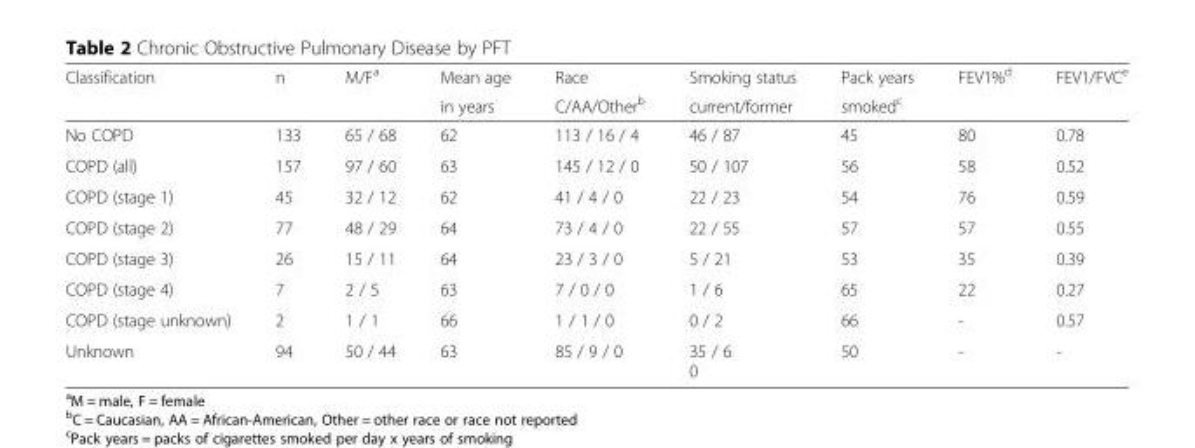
<table><thead><tr><td rowspan="2">Classification</td><td rowspan="2">n</td><td rowspan="2">M/F<sup>a</sup></td><td rowspan="2">Mean age in years</td><td rowspan="2">Race C/AA/Other<sup>b</sup></td><td rowspan="2">Smoking status current/former</td><td rowspan="2">Pack years smoked<sup>c</sup></td><td rowspan="2">FEV1%<sup>d</sup></td><td rowspan="2">FEV1/FVC<sup>e</sup></td></tr><tr></tr></thead><tbody><tr><td>No COPD</td><td>133</td><td>65 / 68</td><td>62</td><td>113 / 16 / 4</td><td>46 / 87</td><td>45</td><td>80</td><td>0.78</td></tr><tr><td>COPD (all)</td><td>157</td><td>97 / 60</td><td>63</td><td>145 / 12 / 0</td><td>50 / 107</td><td>56</td><td>58</td><td>0.52</td></tr><tr><td>COPD (stage 1)</td><td>45</td><td>32 / 12</td><td>62</td><td>41 / 4 / 0</td><td>22 / 23</td><td>54</td><td>76</td><td>0.59</td></tr><tr><td>COPD (stage 2)</td><td>77</td><td>48 / 29</td><td>64</td><td>73 / 4 / 0</td><td>22 / 55</td><td>57</td><td>57</td><td>0.55</td></tr><tr><td>COPD (stage 3)</td><td>26</td><td>15 / 11</td><td>64</td><td>23 / 3 / 0</td><td>5 / 21</td><td>53</td><td>35</td><td>0.39</td></tr><tr><td>COPD (stage 4)</td><td>7</td><td>2 / 5</td><td>63</td><td>7 / 0 / 0</td><td>1 / 6</td><td>65</td><td>22</td><td>0.27</td></tr><tr><td>COPD (stage unknown)</td><td>2</td><td>1 / 1</td><td>66</td><td>1 / 1 / 0</td><td>0 / 2</td><td>66</td><td>-</td><td>0.57</td></tr><tr><td>Unknown</td><td>94</td><td>50 / 44</td><td>63</td><td>85 / 9 / 0</td><td>35 / 6 0</td><td>50</td><td>-</td><td>-</td></tr></tbody></table>